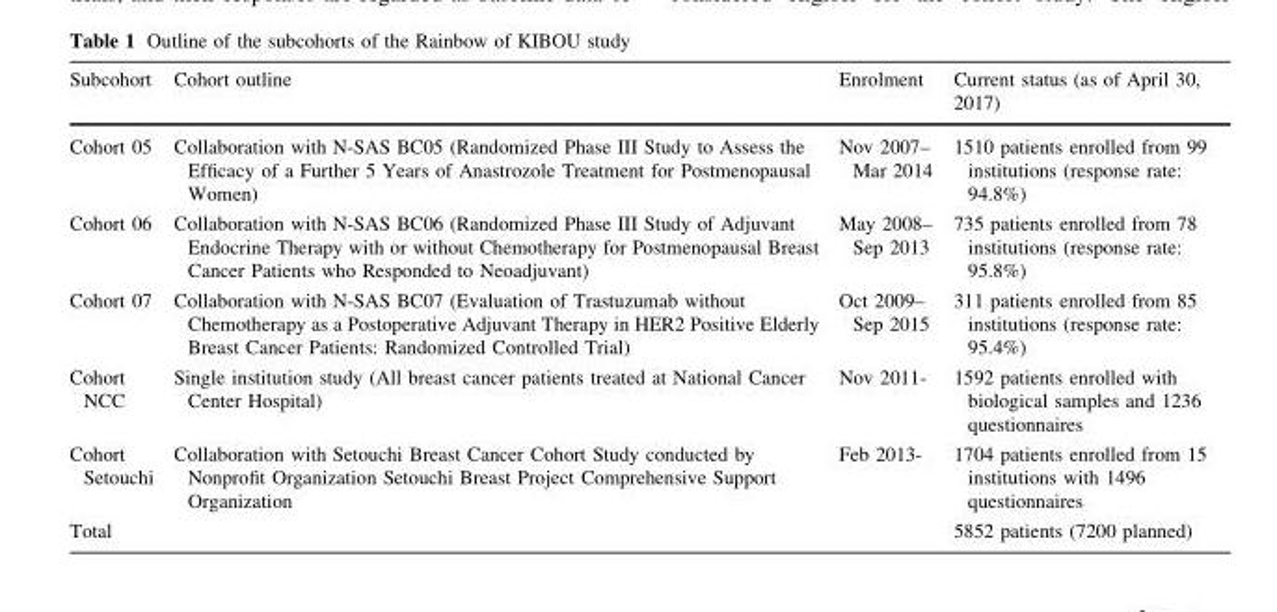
<table><thead><tr><td>Subcohort</td><td>Cohort outline</td><td>Enrolment</td><td>Current status (as of April 30, 2017)</td></tr></thead><tbody><tr><td>Cohort 05</td><td>Collaboration with N-SAS BC05 (Randomized Phase III Study to Assess the Efficacy of a Further 5 Years of Anastrozole Treatment for Postmenopausal Women)</td><td>Nov 2007– Mar 2014</td><td>1510 patients enrolled from 99 institutions (response rate: 94.8%)</td></tr><tr><td>Cohort 06</td><td>Collaboration with N-SAS BC06 (Randomized Phase III Study of Adjuvant Endocrine Therapy with or without Chemotherapy for Postmenopausal Breast Cancer Patients who Responded to Neoadjuvant)</td><td>May 2008– Sep 2013</td><td>735 patients enrolled from 78 institutions (response rate: 95.8%)</td></tr><tr><td>Cohort 07</td><td>Collaboration with N-SAS BC07 (Evaluation of Trastuzumab without Chemotherapy as a Postoperative Adjuvant Therapy in HER2 Positive Elderly Breast Cancer Patients: Randomized Controlled Trial)</td><td>Oct 2009– Sep 2015</td><td>311 patients enrolled from 85 institutions (response rate: 95.4%)</td></tr><tr><td>Cohort NCC</td><td>Single institution study (All breast cancer patients treated at National Cancer Center Hospital)</td><td>Nov 2011-</td><td>1592 patients enrolled with biological samples and 1236 questionnaires</td></tr><tr><td>Cohort Setouchi</td><td>Collaboration with Setouchi Breast Cancer Cohort Study conducted by Nonprofit Organization Setouchi Breast Project Comprehensive Support Organization</td><td>Feb 2013-</td><td>1704 patients enrolled from 15 institutions with 1496 questionnaires</td></tr><tr><td>Total</td><td></td><td></td><td>5852 patients (7200 planned)</td></tr></tbody></table>